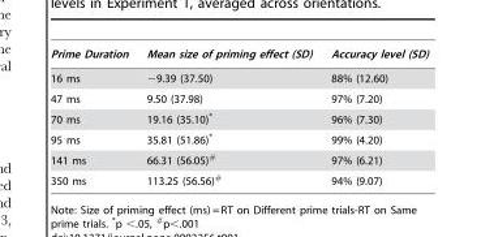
<table><thead><tr><td>Prime Duration</td><td>Mean size of priming effect (SD)</td><td>Accuracy level (SD)</td></tr></thead><tbody><tr><td>16 ms</td><td>−9.39 (37.50)</td><td>88% (12.60)</td></tr><tr><td>47 ms</td><td>9.50 (37.98)</td><td>97% (7.20)</td></tr><tr><td>70 ms</td><td>19.16 (35.10)*</td><td>96% (7.30)</td></tr><tr><td>95 ms</td><td>35.81 (51.86)*</td><td>99% (4.20)</td></tr><tr><td>141 ms</td><td>66.31 (56.05)<sup>#</sup></td><td>97% (6.21)</td></tr><tr><td>350 ms</td><td>113.25 (56.56)<sup>#</sup></td><td>94% (9.07)</td></tr></tbody></table>